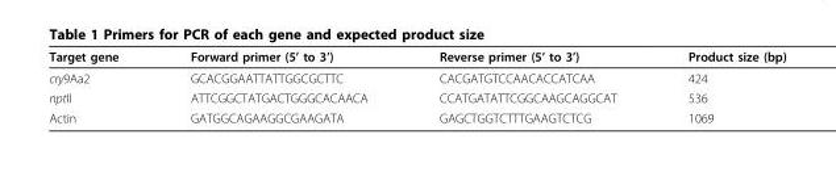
<table><thead><tr><td>Target gene</td><td>Forward primer (5’ to 3’)</td><td>Reverse primer (5’ to 3’)</td><td>Product size (bp)</td></tr></thead><tbody><tr><td>cry9Aa2</td><td>GCACGGAATTATTGGCGCTTC</td><td>CACGATGTCCAACACCATCAA</td><td>424</td></tr><tr><td>nptII</td><td>ATTCGGCTATGACTGGGCACAACA</td><td>CCATGATATTCGGCAAGCAGGCAT</td><td>536</td></tr><tr><td>Actin</td><td>GATGGCAGAAGGCGAAGATA</td><td>GAGCTGGTCTTTGAAGTCTCG</td><td>1069</td></tr></tbody></table>